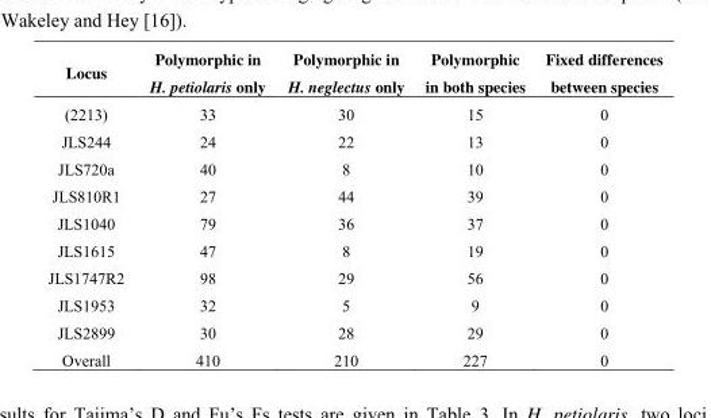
<table><thead><tr><td>Locus</td><td>Polymorphic in H. petiolaris only</td><td>Polymorphic in H. neglectus only</td><td>Polymorphic in both species</td><td>Fixed differences between species</td></tr></thead><tbody><tr><td>(2213)</td><td>33</td><td>30</td><td>15</td><td>0</td></tr><tr><td>JLS244</td><td>24</td><td>22</td><td>13</td><td>0</td></tr><tr><td>JLS720a</td><td>40</td><td>8</td><td>10</td><td>0</td></tr><tr><td>JLS810R1</td><td>27</td><td>44</td><td>39</td><td>0</td></tr><tr><td>JLS1040</td><td>79</td><td>36</td><td>37</td><td>0</td></tr><tr><td>JLS1615</td><td>47</td><td>8</td><td>19</td><td>0</td></tr><tr><td>JLS1747R2</td><td>98</td><td>29</td><td>56</td><td>0</td></tr><tr><td>JLS1953</td><td>32</td><td>5</td><td>9</td><td>0</td></tr><tr><td>JLS2899</td><td>30</td><td>28</td><td>29</td><td>0</td></tr><tr><td>Overall</td><td>410</td><td>210</td><td>227</td><td>0</td></tr></tbody></table>